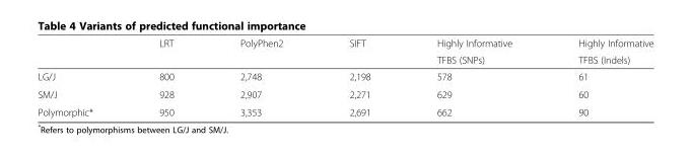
<table><thead><tr><td rowspan="2"></td><td rowspan="2">LRT</td><td rowspan="2">PolyPhen2</td><td rowspan="2">SIFT</td><td rowspan="2">Highly Informative TFBS (SNPs)</td><td rowspan="2">Highly Informative TFBS (Indels)</td></tr><tr></tr></thead><tbody><tr><td>LG/J</td><td>800</td><td>2,748</td><td>2,198</td><td>578</td><td>61</td></tr><tr><td>SM/J</td><td>928</td><td>2,907</td><td>2,271</td><td>629</td><td>60</td></tr><tr><td>Polymorphic*</td><td>950</td><td>3,353</td><td>2,691</td><td>662</td><td>90</td></tr></tbody></table>